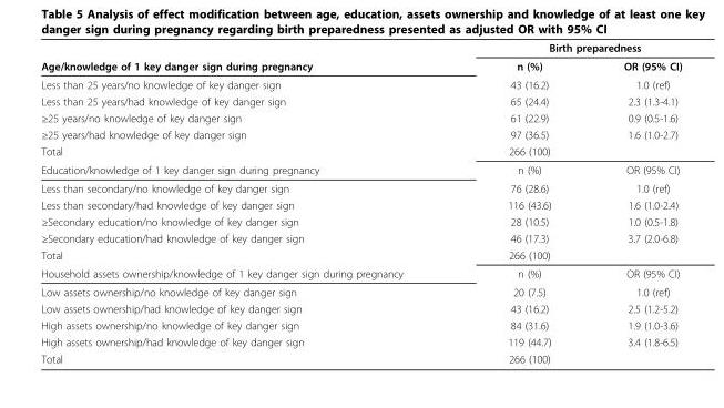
<table><thead><tr><td rowspan="2">Age/knowledge of 1 key danger sign during pregnancy</td><td colspan="2">Birth preparedness</td></tr><tr><td>n (%)</td><td>OR (95% CI)</td></tr></thead><tbody><tr><td>Less than 25 years/no knowledge of key danger sign</td><td>43 (16.2)</td><td>1.0 (ref)</td></tr><tr><td>Less than 25 years/had knowledge of key danger sign</td><td>65 (24.4)</td><td>2.3 (1.3-4.1)</td></tr><tr><td>≥25 years/no knowledge of key danger sign</td><td>61 (22.9)</td><td>0.9 (0.5-1.6)</td></tr><tr><td>≥25 years/had knowledge of key danger sign</td><td>97 (36.5)</td><td>1.6 (1.0-2.7)</td></tr><tr><td>Total</td><td>266 (100)</td><td></td></tr><tr><td>Education/knowledge of 1 key danger sign during pregnancy</td><td>n (%)</td><td>OR (95% CI)</td></tr><tr><td>Less than secondary/no knowledge of key danger sign</td><td>76 (28.6)</td><td>1.0 (ref)</td></tr><tr><td>Less than secondary/had knowledge of key danger sign</td><td>116 (43.6)</td><td>1.6 (1.0-2.4)</td></tr><tr><td>≥Secondary education/no knowledge of key danger sign</td><td>28 (10.5)</td><td>1.0 (0.5-1.8)</td></tr><tr><td>≥Secondary education/had knowledge of key danger sign</td><td>46 (17.3)</td><td>3.7 (2.0-6.8)</td></tr><tr><td>Total</td><td>266 (100)</td><td></td></tr><tr><td>Household assets ownership/knowledge of 1 key danger sign during pregnancy</td><td>n (%)</td><td>OR (95% CI)</td></tr><tr><td>Low assets ownership/no knowledge of key danger sign</td><td>20 (7.5)</td><td>1.0 (ref)</td></tr><tr><td>Low assets ownership/had knowledge of key danger sign</td><td>43 (16.2)</td><td>2.5 (1.2-5.2)</td></tr><tr><td>High assets ownership/no knowledge of key danger sign</td><td>84 (31.6)</td><td>1.9 (1.0-3.6)</td></tr><tr><td>High assets ownership/had knowledge of key danger sign</td><td>119 (44.7)</td><td>3.4 (1.8-6.5)</td></tr><tr><td>Total</td><td>266 (100)</td><td></td></tr></tbody></table>